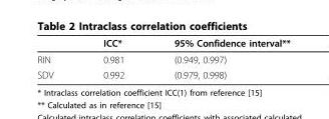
<table><thead><tr><td></td><td>ICC*</td><td>95% Confidence interval**</td></tr></thead><tbody><tr><td>RIN</td><td>0.981</td><td>(0.949, 0.997)</td></tr><tr><td>SDV</td><td>0.992</td><td>(0.979, 0.998)</td></tr></tbody></table>